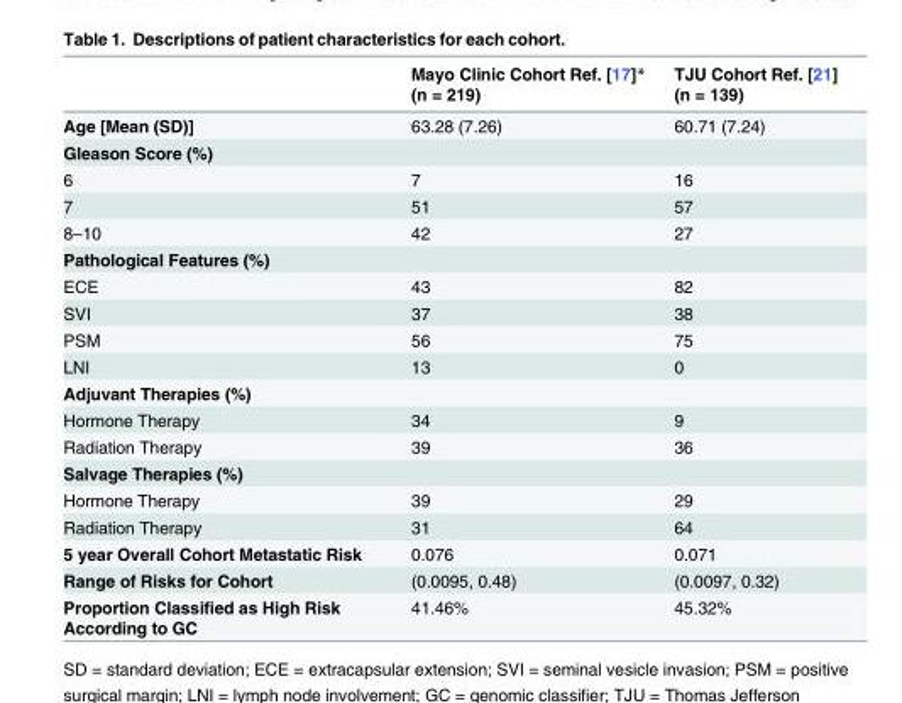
<table><thead><tr><td></td><td>Mayo Clinic Cohort Ref. [17]* (n = 219)</td><td>TJU Cohort Ref. [21] (n = 139)</td></tr></thead><tbody><tr><td>Age [Mean (SD)]</td><td>63.28 (7.26)</td><td>60.71 (7.24)</td></tr><tr><td colspan="3">Gleason Score (%)</td></tr><tr><td>6</td><td>7</td><td>16</td></tr><tr><td>7</td><td>51</td><td>57</td></tr><tr><td>8–10</td><td>42</td><td>27</td></tr><tr><td colspan="3">Pathological Features (%)</td></tr><tr><td>ECE</td><td>43</td><td>82</td></tr><tr><td>SVI</td><td>37</td><td>38</td></tr><tr><td>PSM</td><td>56</td><td>75</td></tr><tr><td>LNI</td><td>13</td><td>0</td></tr><tr><td colspan="3">Adjuvant Therapies (%)</td></tr><tr><td>Hormone Therapy</td><td>34</td><td>9</td></tr><tr><td>Radiation Therapy</td><td>39</td><td>36</td></tr><tr><td colspan="3">Salvage Therapies (%)</td></tr><tr><td>Hormone Therapy</td><td>39</td><td>29</td></tr><tr><td>Radiation Therapy</td><td>31</td><td>64</td></tr><tr><td>5 year Overall Cohort Metastatic Risk</td><td>0.076</td><td>0.071</td></tr><tr><td>Range of Risks for Cohort</td><td>(0.0095, 0.48)</td><td>(0.0097, 0.32)</td></tr><tr><td>Proportion Classified as High Risk According to GC</td><td>41.46%</td><td>45.32%</td></tr></tbody></table>